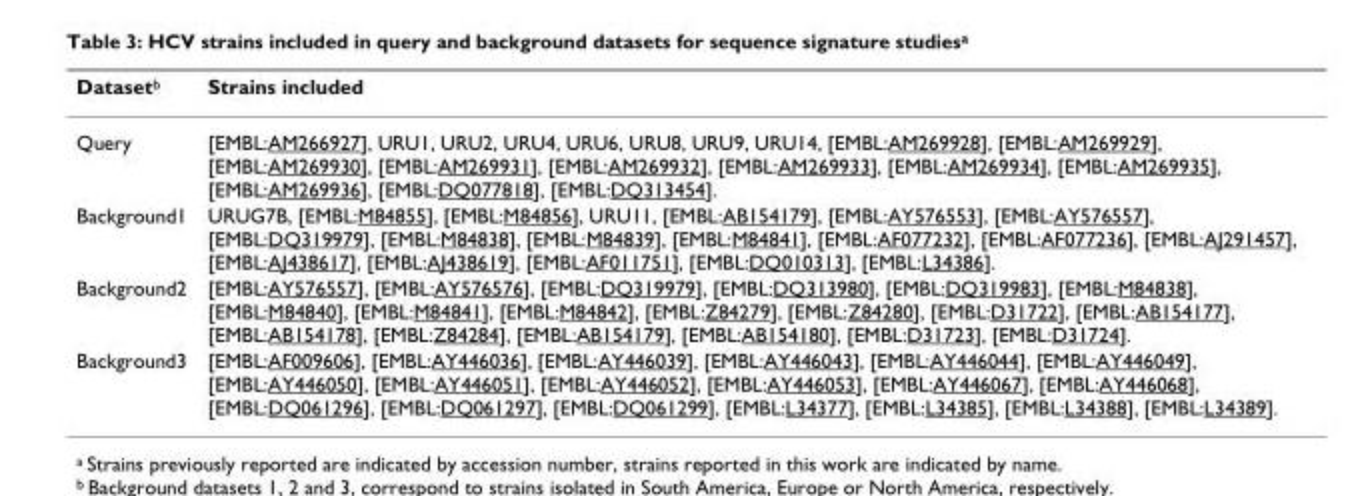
<table><thead><tr><td>Dataset<sup>b</sup></td><td>Strains included</td></tr></thead><tbody><tr><td>Query</td><td>[EMBL:AM266927], URU1, URU2, URU4, URU6, URU8, URU9, URU14, [EMBL:AM269928], [EMBL:AM269929], [EMBL:AM269930], [EMBL:AM269931], [EMBL:AM269932], [EMBL:AM269933], [EMBL:AM269934], [EMBL:AM269935], [EMBL:AM269936], [EMBL:DQ077818], [EMBL:DQ313454].</td></tr><tr><td>Background1</td><td>URUG7B, [EMBL:M84855], [EMBL:M84856], URU11, [EMBL:AB154179], [EMBL:AY576553], [EMBL:AY576557], [EMBL:DQ319979], [EMBL:M84838], [EMBL:M84839], [EMBL:M84841], [EMBL:AF077232], [EMBL:AF077236], [EMBL:AJ291457], [EMBL:AJ438617], [EMBL:AJ438619], [EMBL:AF011751], [EMBL:DQ010313], [EMBL:L34386].</td></tr><tr><td>Background2</td><td>[EMBL:AY576557], [EMBL:AY576576], [EMBL:DQ319979], [EMBL:DQ313980], [EMBL:DQ319983], [EMBL:M84838], [EMBL:M84840], [EMBL:M84841], [EMBL:M84842], [EMBL:Z84279], [EMBL:Z84280], [EMBL:D31722], [EMBL:AB154177], [EMBL:AB154178], [EMBL:Z84284], [EMBL:AB154179], [EMBL:AB154180], [EMBL:D31723], [EMBL:D31724].</td></tr><tr><td>Background3</td><td>[EMBL:AF009606], [EMBL:AY446036], [EMBL:AY446039], [EMBL:AY446043], [EMBL:AY446044], [EMBL:AY446049], [EMBL:AY446050], [EMBL:AY446051], [EMBL:AY446052], [EMBL:AY446053], [EMBL:AY446067], [EMBL:AY446068], [EMBL:DQ061296], [EMBL:DQ061297], [EMBL:DQ061299], [EMBL:L34377], [EMBL:L34385], [EMBL:L34388], [EMBL:L34389].</td></tr></tbody></table>